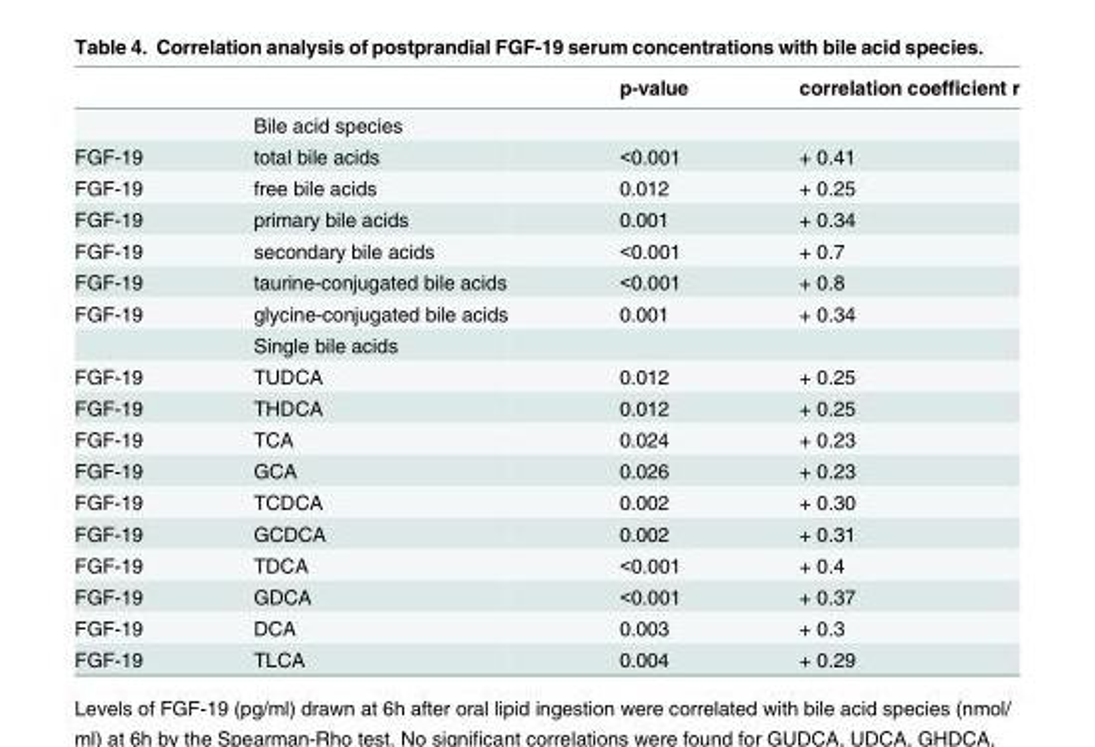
<table><thead><tr><td></td><td></td><td>p-value</td><td>correlation coefficient r</td></tr></thead><tbody><tr><td></td><td>Bile acid species</td><td></td><td></td></tr><tr><td>FGF-19</td><td>total bile acids</td><td>&lt;0.001</td><td>+ 0.41</td></tr><tr><td>FGF-19</td><td>free bile acids</td><td>0.012</td><td>+ 0.25</td></tr><tr><td>FGF-19</td><td>primary bile acids</td><td>0.001</td><td>+ 0.34</td></tr><tr><td>FGF-19</td><td>secondary bile acids</td><td>&lt;0.001</td><td>+ 0.7</td></tr><tr><td>FGF-19</td><td>taurine-conjugated bile acids</td><td>&lt;0.001</td><td>+ 0.8</td></tr><tr><td rowspan="2">FGF-19</td><td>glycine-conjugated bile acids</td><td>0.001</td><td>+ 0.34</td></tr><tr><td>Single bile acids</td><td></td><td></td></tr><tr><td>FGF-19</td><td>TUDCA</td><td>0.012</td><td>+ 0.25</td></tr><tr><td>FGF-19</td><td>THDCA</td><td>0.012</td><td>+ 0.25</td></tr><tr><td>FGF-19</td><td>TCA</td><td>0.024</td><td>+ 0.23</td></tr><tr><td>FGF-19</td><td>GCA</td><td>0.026</td><td>+ 0.23</td></tr><tr><td>FGF-19</td><td>TCDCA</td><td>0.002</td><td>+ 0.30</td></tr><tr><td>FGF-19</td><td>GCDCA</td><td>0.002</td><td>+ 0.31</td></tr><tr><td>FGF-19</td><td>TDCA</td><td>&lt;0.001</td><td>+ 0.4</td></tr><tr><td>FGF-19</td><td>GDCA</td><td>&lt;0.001</td><td>+ 0.37</td></tr><tr><td>FGF-19</td><td>DCA</td><td>0.003</td><td>+ 0.3</td></tr><tr><td>FGF-19</td><td>TLCA</td><td>0.004</td><td>+ 0.29</td></tr></tbody></table>